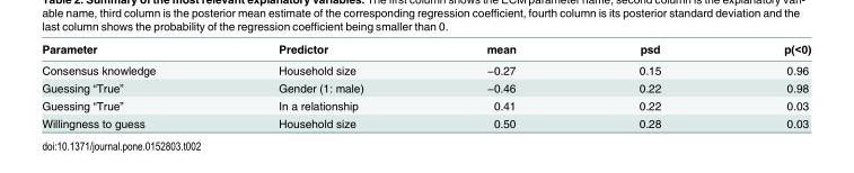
<table><thead><tr><td>Parameter</td><td>Predictor</td><td>mean</td><td>psd</td><td>p(&lt;0)</td></tr></thead><tbody><tr><td>Consensus knowledge</td><td>Household size</td><td>−0.27</td><td>0.15</td><td>0.96</td></tr><tr><td>Guessing “True”</td><td>Gender (1: male)</td><td>−0.46</td><td>0.22</td><td>0.98</td></tr><tr><td>Guessing “True”</td><td>In a relationship</td><td>0.41</td><td>0.22</td><td>0.03</td></tr><tr><td>Willingness to guess</td><td>Household size</td><td>0.50</td><td>0.28</td><td>0.03</td></tr></tbody></table>